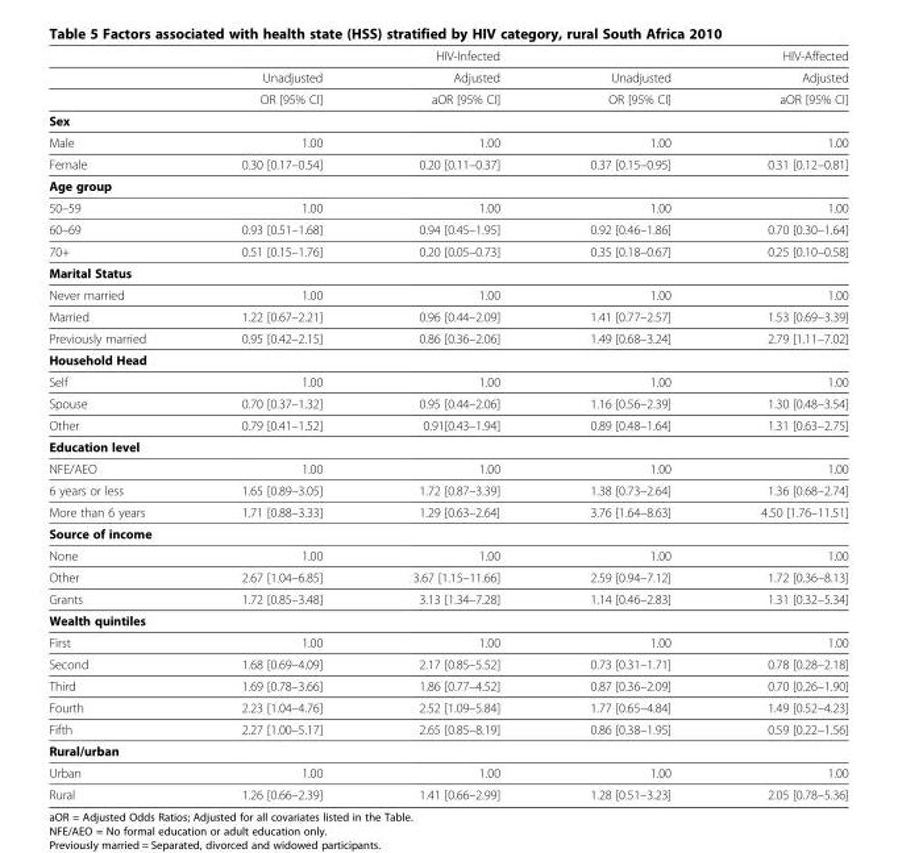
<table><thead><tr><td rowspan="2"></td><td colspan="2">HIV-Infected</td><td colspan="2">HIV-Affected</td></tr><tr><td>Unadjusted</td><td>Adjusted</td><td>Unadjusted</td><td>Adjusted</td></tr></thead><tbody><tr><td></td><td>OR [95% CI]</td><td>aOR [95% CI]</td><td>OR [95% CI]</td><td>aOR [95% CI]</td></tr><tr><td colspan="5">Sex</td></tr><tr><td>Male</td><td>1.00</td><td>1.00</td><td>1.00</td><td>1.00</td></tr><tr><td>Female</td><td>0.30 [0.17–0.54]</td><td>0.20 [0.11–0.37]</td><td>0.37 [0.15–0.95]</td><td>0.31 [0.12–0.81]</td></tr><tr><td colspan="5">Age group</td></tr><tr><td>50–59</td><td>1.00</td><td>1.00</td><td>1.00</td><td>1.00</td></tr><tr><td>60–69</td><td>0.93 [0.51–1.68]</td><td>0.94 [0.45–1.95]</td><td>0.92 [0.46–1.86]</td><td>0.70 [0.30–1.64]</td></tr><tr><td>70+</td><td>0.51 [0.15–1.76]</td><td>0.20 [0.05–0.73]</td><td>0.35 [0.18–0.67]</td><td>0.25 [0.10–0.58]</td></tr><tr><td colspan="5">Marital Status</td></tr><tr><td>Never married</td><td>1.00</td><td>1.00</td><td>1.00</td><td>1.00</td></tr><tr><td>Married</td><td>1.22 [0.67–2.21]</td><td>0.96 [0.44–2.09]</td><td>1.41 [0.77–2.57]</td><td>1.53 [0.69–3.39]</td></tr><tr><td>Previously married</td><td>0.95 [0.42–2.15]</td><td>0.86 [0.36–2.06]</td><td>1.49 [0.68–3.24]</td><td>2.79 [1.11–7.02]</td></tr><tr><td colspan="5">Household Head</td></tr><tr><td>Self</td><td>1.00</td><td>1.00</td><td>1.00</td><td>1.00</td></tr><tr><td>Spouse</td><td>0.70 [0.37–1.32]</td><td>0.95 [0.44–2.06]</td><td>1.16 [0.56–2.39]</td><td>1.30 [0.48–3.54]</td></tr><tr><td>Other</td><td>0.79 [0.41–1.52]</td><td>0.91[0.43–1.94]</td><td>0.89 [0.48–1.64]</td><td>1.31 [0.63–2.75]</td></tr><tr><td colspan="5">Education level</td></tr><tr><td>NFE/AEO</td><td>1.00</td><td>1.00</td><td>1.00</td><td>1.00</td></tr><tr><td>6 years or less</td><td>1.65 [0.89–3.05]</td><td>1.72 [0.87–3.39]</td><td>1.38 [0.73–2.64]</td><td>1.36 [0.68–2.74]</td></tr><tr><td>More than 6 years</td><td>1.71 [0.88–3.33]</td><td>1.29 [0.63–2.64]</td><td>3.76 [1.64–8.63]</td><td>4.50 [1.76–11.51]</td></tr><tr><td colspan="5">Source of income</td></tr><tr><td>None</td><td>1.00</td><td>1.00</td><td>1.00</td><td>1.00</td></tr><tr><td>Other</td><td>2.67 [1.04–6.85]</td><td>3.67 [1.15–11.66]</td><td>2.59 [0.94–7.12]</td><td>1.72 [0.36–8.13]</td></tr><tr><td>Grants</td><td>1.72 [0.85–3.48]</td><td>3.13 [1.34–7.28]</td><td>1.14 [0.46–2.83]</td><td>1.31 [0.32–5.34]</td></tr><tr><td colspan="5">Wealth quintiles</td></tr><tr><td>First</td><td>1.00</td><td>1.00</td><td>1.00</td><td>1.00</td></tr><tr><td>Second</td><td>1.68 [0.69–4.09]</td><td>2.17 [0.85–5.52]</td><td>0.73 [0.31–1.71]</td><td>0.78 [0.28–2.18]</td></tr><tr><td>Third</td><td>1.69 [0.78–3.66]</td><td>1.86 [0.77–4.52]</td><td>0.87 [0.36–2.09]</td><td>0.70 [0.26–1.90]</td></tr><tr><td>Fourth</td><td>2.23 [1.04–4.76]</td><td>2.52 [1.09–5.84]</td><td>1.77 [0.65–4.84]</td><td>1.49 [0.52–4.23]</td></tr><tr><td>Fifth</td><td>2.27 [1.00–5.17]</td><td>2.65 [0.85–8.19]</td><td>0.86 [0.38–1.95]</td><td>0.59 [0.22–1.56]</td></tr><tr><td colspan="5">Rural/urban</td></tr><tr><td>Urban</td><td>1.00</td><td>1.00</td><td>1.00</td><td>1.00</td></tr><tr><td>Rural</td><td>1.26 [0.66–2.39]</td><td>1.41 [0.66–2.99]</td><td>1.28 [0.51–3.23]</td><td>2.05 [0.78–5.36]</td></tr></tbody></table>